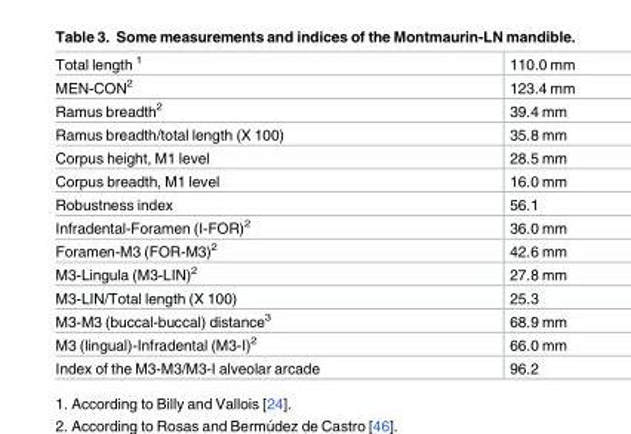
<table><tbody><tr><td>Total length <sup>1</sup></td><td>110.0 mm</td></tr><tr><td>MEN-CON<sup>2</sup></td><td>123.4 mm</td></tr><tr><td>Ramus breadth<sup>2</sup></td><td>39.4 mm</td></tr><tr><td>Ramus breadth/total length (X 100)</td><td>35.8 mm</td></tr><tr><td>Corpus height, M1 level</td><td>28.5 mm</td></tr><tr><td>Corpus breadth, M1 level</td><td>16.0 mm</td></tr><tr><td>Robustness index</td><td>56.1</td></tr><tr><td>Infradental-Foramen (I-FOR)<sup>2</sup></td><td>36.0 mm</td></tr><tr><td>Foramen-M3 (FOR-M3)<sup>2</sup></td><td>42.6 mm</td></tr><tr><td>M3-Lingula (M3-LIN)<sup>2</sup></td><td>27.8 mm</td></tr><tr><td>M3-LIN/Total length (X 100)</td><td>25.3</td></tr><tr><td>M3-M3 (buccal-buccal) distance<sup>3</sup></td><td>68.9 mm</td></tr><tr><td>M3 (lingual)-Infradental (M3-I)<sup>2</sup></td><td>66.0 mm</td></tr><tr><td>Index of the M3-M3/M3-I alveolar arcade</td><td>96.2</td></tr></tbody></table>